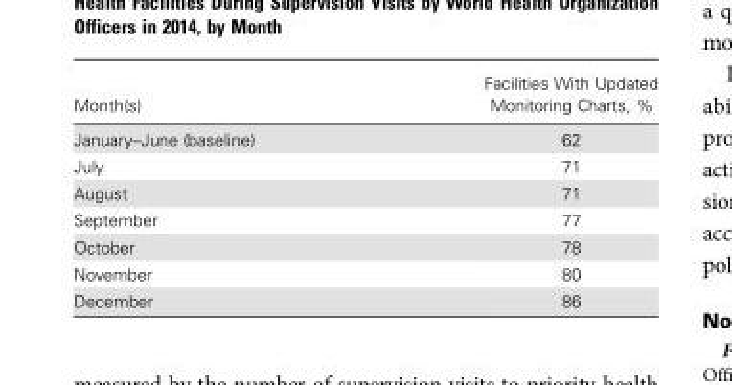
<table><thead><tr><td>Month(s)</td><td>Facilities With Updated Monitoring Charts, %</td></tr></thead><tbody><tr><td>January–June (baseline)</td><td>62</td></tr><tr><td>July</td><td>71</td></tr><tr><td>August</td><td>71</td></tr><tr><td>September</td><td>77</td></tr><tr><td>October</td><td>78</td></tr><tr><td>November</td><td>80</td></tr><tr><td>December</td><td>86</td></tr></tbody></table>